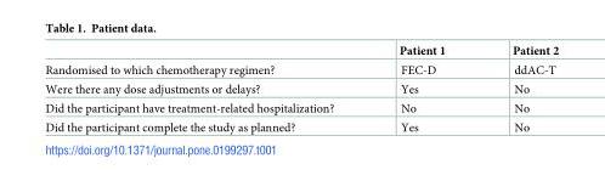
<table><thead><tr><td></td><td>Patient 1</td><td>Patient 2</td></tr></thead><tbody><tr><td>Randomised to which chemotherapy regimen?</td><td>FEC-D</td><td>ddAC-T</td></tr><tr><td>Were there any dose adjustments or delays?</td><td>Yes</td><td>No</td></tr><tr><td>Did the participant have treatment-related hospitalization?</td><td>No</td><td>No</td></tr><tr><td>Did the participant complete the study as planned?</td><td>Yes</td><td>No</td></tr></tbody></table>